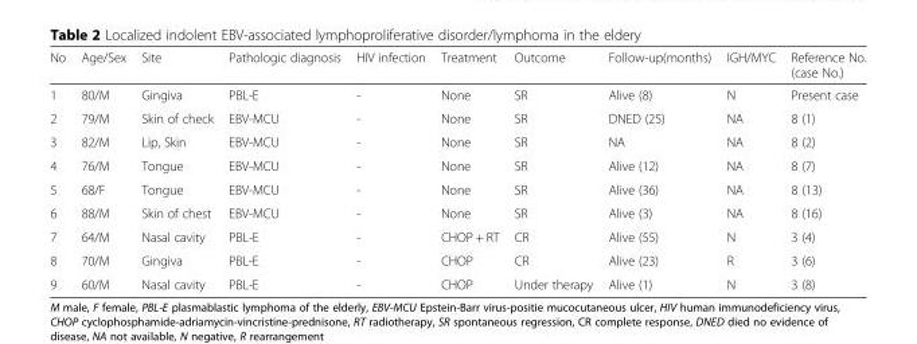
<table><thead><tr><td>No</td><td>Age/Sex</td><td>Site</td><td>Pathologic diagnosis</td><td>HIV infection</td><td>Treatment</td><td>Outcome</td><td>Follow-up(months)</td><td>IGH/MYC</td><td>Reference No. (case No.)</td></tr></thead><tbody><tr><td>1</td><td>80/M</td><td>Gingiva</td><td>PBL-E</td><td>-</td><td>None</td><td>SR</td><td>Alive (8)</td><td>N</td><td>Present case</td></tr><tr><td>2</td><td>79/M</td><td>Skin of check</td><td>EBV-MCU</td><td>-</td><td>None</td><td>SR</td><td>DNED (25)</td><td>NA</td><td>8 (1)</td></tr><tr><td>3</td><td>82/M</td><td>Lip, Skin</td><td>EBV-MCU</td><td>-</td><td>None</td><td>SR</td><td>NA</td><td>NA</td><td>8 (2)</td></tr><tr><td>4</td><td>76/M</td><td>Tongue</td><td>EBV-MCU</td><td>-</td><td>None</td><td>SR</td><td>Alive (12)</td><td>NA</td><td>8 (7)</td></tr><tr><td>5</td><td>68/F</td><td>Tongue</td><td>EBV-MCU</td><td>-</td><td>None</td><td>SR</td><td>Alive (36)</td><td>NA</td><td>8 (13)</td></tr><tr><td>6</td><td>88/M</td><td>Skin of chest</td><td>EBV-MCU</td><td>-</td><td>None</td><td>SR</td><td>Alive (3)</td><td>NA</td><td>8 (16)</td></tr><tr><td>7</td><td>64/M</td><td>Nasal cavity</td><td>PBL-E</td><td>-</td><td>CHOP + RT</td><td>CR</td><td>Alive (55)</td><td>N</td><td>3 (4)</td></tr><tr><td>8</td><td>70/M</td><td>Gingiva</td><td>PBL-E</td><td>-</td><td>CHOP</td><td>CR</td><td>Alive (23)</td><td>R</td><td>3 (6)</td></tr><tr><td>9</td><td>60/M</td><td>Nasal cavity</td><td>PBL-E</td><td>-</td><td>CHOP</td><td>Under therapy</td><td>Alive (1)</td><td>N</td><td>3 (8)</td></tr></tbody></table>